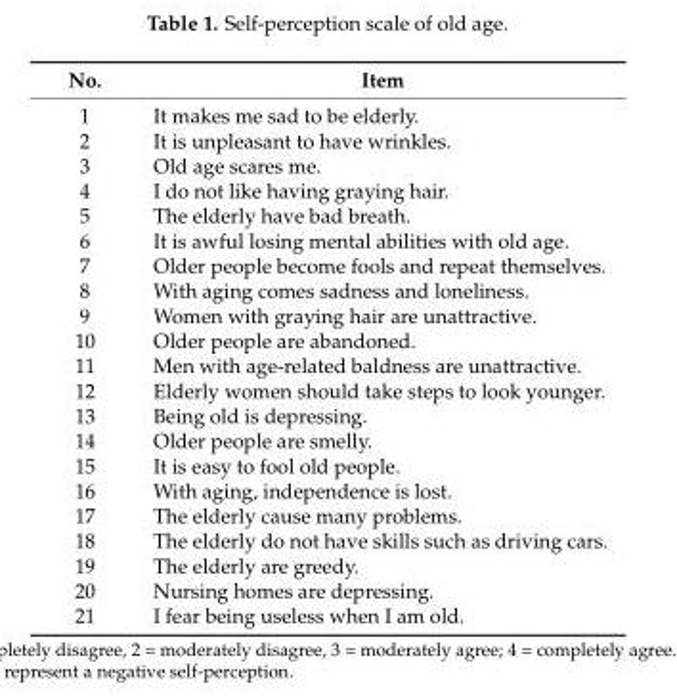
<table><thead><tr><td>No.</td><td>Item</td></tr></thead><tbody><tr><td>1</td><td>It makes me sad to be elderly.</td></tr><tr><td>2</td><td>It is unpleasant to have wrinkles.</td></tr><tr><td>3</td><td>Old age scares me.</td></tr><tr><td>4</td><td>I do not like having graying hair.</td></tr><tr><td>5</td><td>The elderly have bad breath.</td></tr><tr><td>6</td><td>It is awful losing mental abilities with old age.</td></tr><tr><td>7</td><td>Older people become fools and repeat themselves.</td></tr><tr><td>8</td><td>With aging comes sadness and loneliness.</td></tr><tr><td>9</td><td>Women with graying hair are unattractive.</td></tr><tr><td>10</td><td>Older people are abandoned.</td></tr><tr><td>11</td><td>Men with age-related baldness are unattractive.</td></tr><tr><td>12</td><td>Elderly women should take steps to look younger.</td></tr><tr><td>13</td><td>Being old is depressing.</td></tr><tr><td>14</td><td>Older people are smelly.</td></tr><tr><td>15</td><td>It is easy to fool old people.</td></tr><tr><td>16</td><td>With aging, independence is lost.</td></tr><tr><td>17</td><td>The elderly cause many problems.</td></tr><tr><td>18</td><td>The elderly do not have skills such as driving cars.</td></tr><tr><td>19</td><td>The elderly are greedy.</td></tr><tr><td>20</td><td>Nursing homes are depressing.</td></tr><tr><td>21</td><td>I fear being useless when I am old.</td></tr></tbody></table>